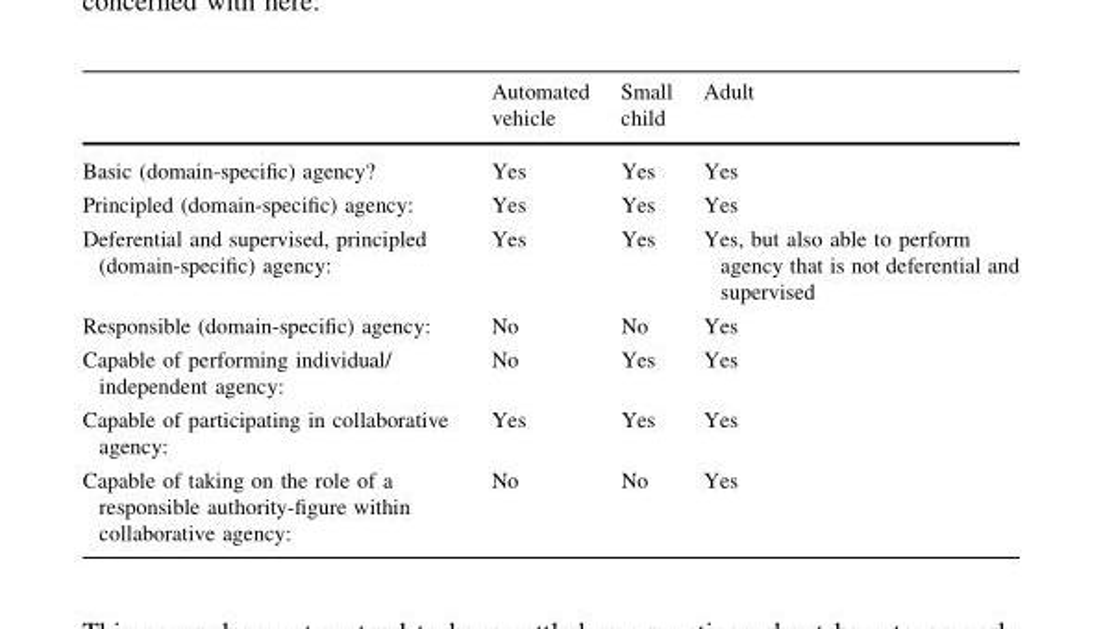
<table><thead><tr><td></td><td>Automated vehicle</td><td>Small child</td><td>Adult</td></tr></thead><tbody><tr><td>Basic (domain-specific) agency?</td><td>Yes</td><td>Yes</td><td>Yes</td></tr><tr><td>Principled (domain-specific) agency:</td><td>Yes</td><td>Yes</td><td>Yes</td></tr><tr><td>Deferential and supervised, principled (domain-specific) agency:</td><td>Yes</td><td>Yes</td><td>Yes, but also able to perform agency that is not deferential and supervised</td></tr><tr><td>Responsible (domain-specific) agency:</td><td>No</td><td>No</td><td>Yes</td></tr><tr><td>Capable of performing individual/ independent agency:</td><td>No</td><td>Yes</td><td>Yes</td></tr><tr><td>Capable of participating in collaborative agency:</td><td>Yes</td><td>Yes</td><td>Yes</td></tr><tr><td>Capable of taking on the role of a responsible authority-figure within collaborative agency:</td><td>No</td><td>No</td><td>Yes</td></tr></tbody></table>